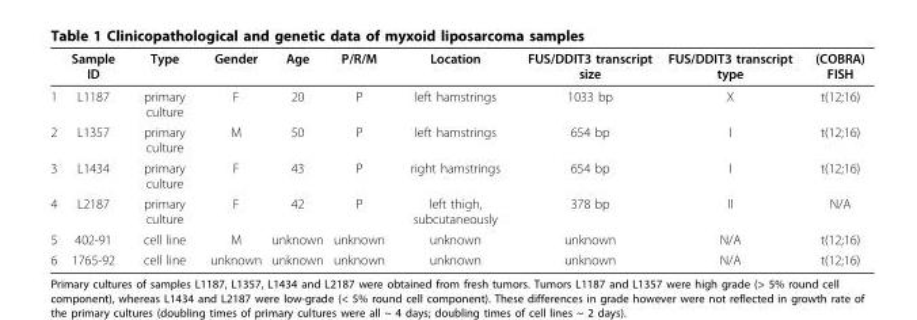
<table><thead><tr><td></td><td>Sample ID</td><td>Type</td><td>Gender</td><td>Age</td><td>P/R/M</td><td>Location</td><td>FUS/DDIT3 transcript size</td><td>FUS/DDIT3 transcript type</td><td>(COBRA) FISH</td></tr></thead><tbody><tr><td>1</td><td>L1187</td><td>primary culture</td><td>F</td><td>20</td><td>P</td><td>left hamstrings</td><td>1033 bp</td><td>X</td><td>t(12;16)</td></tr><tr><td>2</td><td>L1357</td><td>primary culture</td><td>M</td><td>50</td><td>P</td><td>left hamstrings</td><td>654 bp</td><td>I</td><td>t(12;16)</td></tr><tr><td>3</td><td>L1434</td><td>primary culture</td><td>F</td><td>43</td><td>P</td><td>right hamstrings</td><td>654 bp</td><td>I</td><td>t(12;16)</td></tr><tr><td>4</td><td>L2187</td><td>primary culture</td><td>F</td><td>42</td><td>P</td><td>left thigh, subcutaneously</td><td>378 bp</td><td>II</td><td>N/A</td></tr><tr><td>5</td><td>402-91</td><td>cell line</td><td>M</td><td>unknown</td><td>unknown</td><td>unknown</td><td>unknown</td><td>N/A</td><td>t(12;16)</td></tr><tr><td>6</td><td>1765-92</td><td>cell line</td><td>unknown</td><td>unknown</td><td>unknown</td><td>unknown</td><td>unknown</td><td>N/A</td><td>t(12;16)</td></tr></tbody></table>